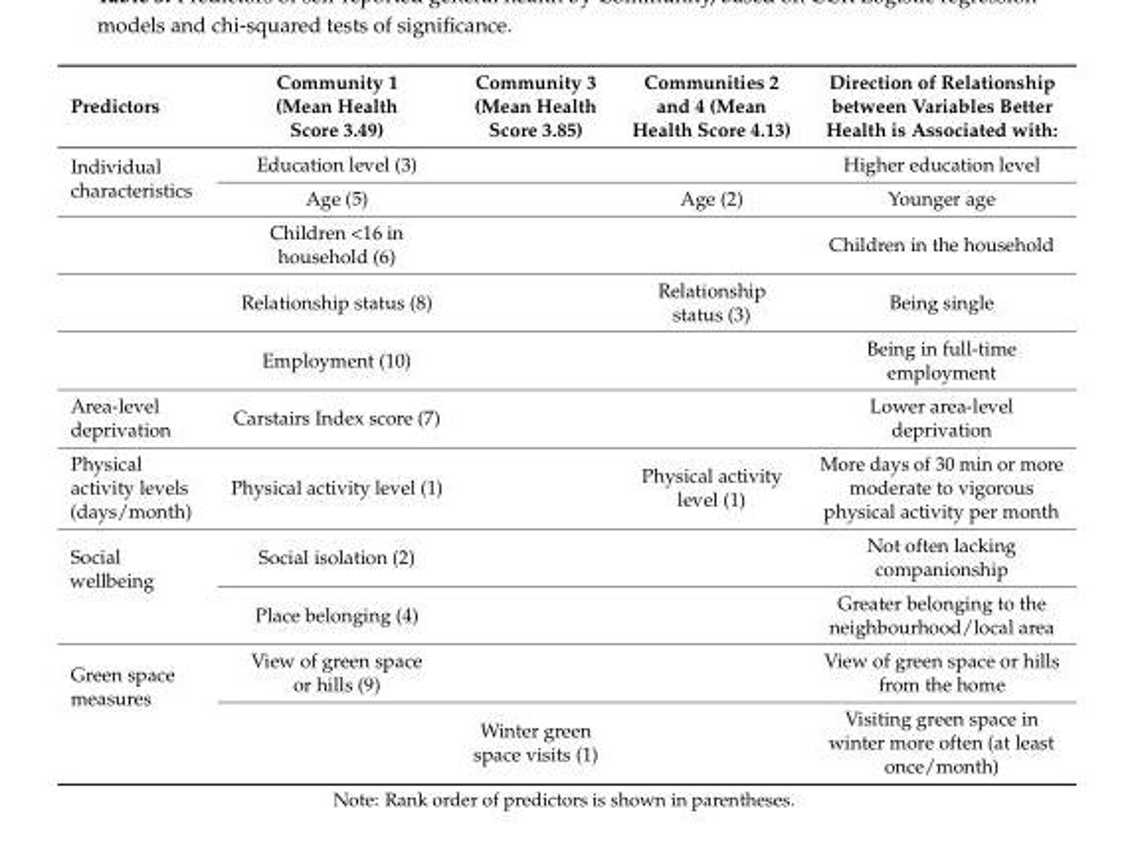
<table><thead><tr><td>Predictors</td><td>Community 1 (Mean Health Score 3.49)</td><td>Community 3 (Mean Health Score 3.85)</td><td>Communities 2 and 4 (Mean Health Score 4.13)</td><td>Direction of Relationship between Variables Better Health is Associated with:</td></tr></thead><tbody><tr><td rowspan="5">Individual characteristics</td><td>Education level (3)</td><td></td><td></td><td>Higher education level</td></tr><tr><td>Age (5)</td><td></td><td>Age (2)</td><td>Younger age</td></tr><tr><td>Children &lt;16 in household (6)</td><td></td><td></td><td>Children in the household</td></tr><tr><td>Relationship status (8)</td><td></td><td>Relationship status (3)</td><td>Being single</td></tr><tr><td>Employment (10)</td><td></td><td></td><td>Being in full-time employment</td></tr><tr><td>Area-level deprivation</td><td>Carstairs Index score (7)</td><td></td><td></td><td>Lower area-level deprivation</td></tr><tr><td>Physical activity levels (days/month)</td><td>Physical activity level (1)</td><td></td><td>Physical activity level (1)</td><td>More days of 30 min or more moderate to vigorous physical activity per month</td></tr><tr><td rowspan="2">Social wellbeing</td><td>Social isolation (2)</td><td></td><td></td><td>Not often lacking companionship</td></tr><tr><td>Place belonging (4)</td><td></td><td></td><td>Greater belonging to the neighbourhood/local area</td></tr><tr><td rowspan="2">Green space measures</td><td>View of green space or hills (9)</td><td></td><td></td><td>View of green space or hills from the home</td></tr><tr><td></td><td>Winter green space visits (1)</td><td></td><td>Visiting green space in winter more often (at least once/month)</td></tr></tbody></table>